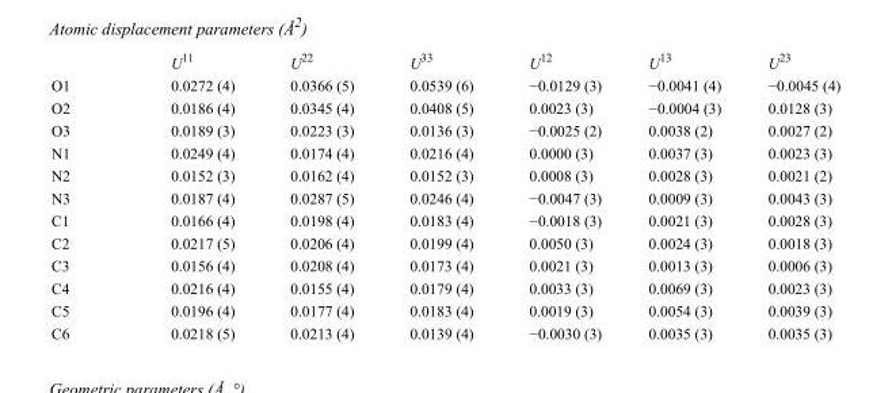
<table><thead><tr><td></td><td>U<sup>11</sup></td><td>U<sup>22</sup></td><td>U<sup>33</sup></td><td>U<sup>12</sup></td><td>U<sup>13</sup></td><td>U<sup>23</sup></td></tr></thead><tbody><tr><td>O1</td><td>0.0272 (4)</td><td>0.0366 (5)</td><td>0.0539 (6)</td><td>−0.0129 (3)</td><td>−0.0041 (4)</td><td>−0.0045 (4)</td></tr><tr><td>O2</td><td>0.0186 (4)</td><td>0.0345 (4)</td><td>0.0408 (5)</td><td>0.0023 (3)</td><td>−0.0004 (3)</td><td>0.0128 (3)</td></tr><tr><td>O3</td><td>0.0189 (3)</td><td>0.0223 (3)</td><td>0.0136 (3)</td><td>−0.0025 (2)</td><td>0.0038 (2)</td><td>0.0027 (2)</td></tr><tr><td>N1</td><td>0.0249 (4)</td><td>0.0174 (4)</td><td>0.0216 (4)</td><td>0.0000 (3)</td><td>0.0037 (3)</td><td>0.0023 (3)</td></tr><tr><td>N2</td><td>0.0152 (3)</td><td>0.0162 (4)</td><td>0.0152 (3)</td><td>0.0008 (3)</td><td>0.0028 (3)</td><td>0.0021 (2)</td></tr><tr><td>N3</td><td>0.0187 (4)</td><td>0.0287 (5)</td><td>0.0246 (4)</td><td>−0.0047 (3)</td><td>0.0009 (3)</td><td>0.0043 (3)</td></tr><tr><td>C1</td><td>0.0166 (4)</td><td>0.0198 (4)</td><td>0.0183 (4)</td><td>−0.0018 (3)</td><td>0.0021 (3)</td><td>0.0028 (3)</td></tr><tr><td>C2</td><td>0.0217 (5)</td><td>0.0206 (4)</td><td>0.0199 (4)</td><td>0.0050 (3)</td><td>0.0024 (3)</td><td>0.0018 (3)</td></tr><tr><td>C3</td><td>0.0156 (4)</td><td>0.0208 (4)</td><td>0.0173 (4)</td><td>0.0021 (3)</td><td>0.0013 (3)</td><td>0.0006 (3)</td></tr><tr><td>C4</td><td>0.0216 (4)</td><td>0.0155 (4)</td><td>0.0179 (4)</td><td>0.0033 (3)</td><td>0.0069 (3)</td><td>0.0023 (3)</td></tr><tr><td>C5</td><td>0.0196 (4)</td><td>0.0177 (4)</td><td>0.0183 (4)</td><td>0.0019 (3)</td><td>0.0054 (3)</td><td>0.0039 (3)</td></tr><tr><td>C6</td><td>0.0218 (5)</td><td>0.0213 (4)</td><td>0.0139 (4)</td><td>−0.0030 (3)</td><td>0.0035 (3)</td><td>0.0035 (3)</td></tr></tbody></table>